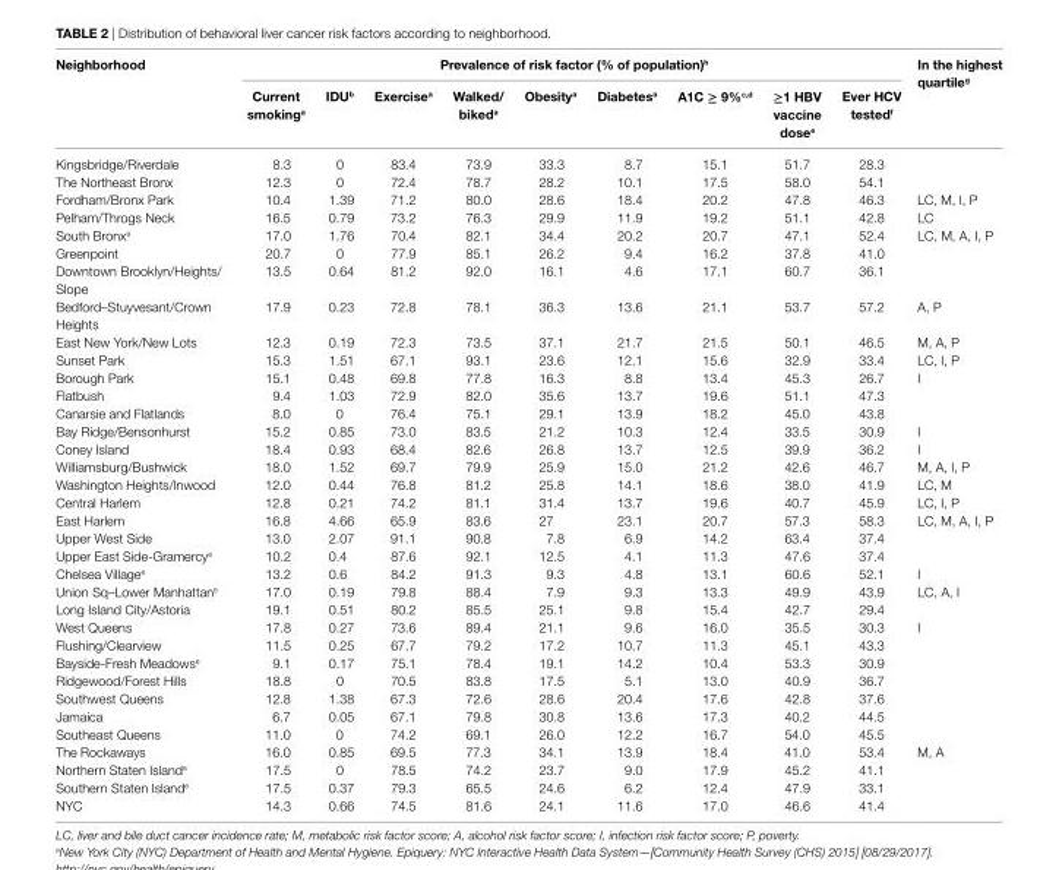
<table><thead><tr><td rowspan="2">neighborhood</td><td colspan="9">Prevalence of risk factor (% of population)<sup>h</sup></td><td rowspan="2">in the highest quartile<sup>g</sup></td></tr><tr><td>current smoking<sup>a</sup></td><td>iDU<sup>b</sup></td><td>exercise<sup>a</sup></td><td>Walked/ biked<sup>a</sup></td><td>Obesity<sup>a</sup></td><td>Diabetes<sup>a</sup></td><td>a1c ≥ 9%<sup>c,d</sup></td><td>≥1 hBV vaccine dose<sup>e</sup></td><td>ever hcV tested<sup>f</sup></td></tr></thead><tbody><tr><td>Kingsbridge/Riverdale</td><td>8.3</td><td>0</td><td>83.4</td><td>73.9</td><td>33.3</td><td>8.7</td><td>15.1</td><td>51.7</td><td>28.3</td><td></td></tr><tr><td>The Northeast Bronx</td><td>12.3</td><td>0</td><td>72.4</td><td>78.7</td><td>28.2</td><td>10.1</td><td>17.5</td><td>58.0</td><td>54.1</td><td></td></tr><tr><td>Fordham/Bronx Park</td><td>10.4</td><td>1.39</td><td>71.2</td><td>80.0</td><td>28.6</td><td>18.4</td><td>20.2</td><td>47.8</td><td>46.3</td><td>LC, M, I, P</td></tr><tr><td>Pelham/Throgs Neck</td><td>16.5</td><td>0.79</td><td>73.2</td><td>76.3</td><td>29.9</td><td>11.9</td><td>19.2</td><td>51.1</td><td>42.8</td><td>LC</td></tr><tr><td>South Bronx<sup>e</sup></td><td>17.0</td><td>1.76</td><td>70.4</td><td>82.1</td><td>34.4</td><td>20.2</td><td>20.7</td><td>47.1</td><td>52.4</td><td>LC, M, A, I, P</td></tr><tr><td>Greenpoint</td><td>20.7</td><td>0</td><td>77.9</td><td>85.1</td><td>26.2</td><td>9.4</td><td>16.2</td><td>37.8</td><td>41.0</td><td></td></tr><tr><td>Downtown Brooklyn/Heights/ Slope</td><td>13.5</td><td>0.64</td><td>81.2</td><td>92.0</td><td>16.1</td><td>4.6</td><td>17.1</td><td>60.7</td><td>36.1</td><td></td></tr><tr><td>Bedford–Stuyvesant/Crown Heights</td><td>17.9</td><td>0.23</td><td>72.8</td><td>78.1</td><td>36.3</td><td>13.6</td><td>21.1</td><td>53.7</td><td>57.2</td><td>A, P</td></tr><tr><td>East New York/New Lots</td><td>12.3</td><td>0.19</td><td>72.3</td><td>73.5</td><td>37.1</td><td>21.7</td><td>21.5</td><td>50.1</td><td>46.5</td><td>M, A, P</td></tr><tr><td>Sunset Park</td><td>15.3</td><td>1.51</td><td>67.1</td><td>93.1</td><td>23.6</td><td>12.1</td><td>15.6</td><td>32.9</td><td>33.4</td><td>LC, I, P</td></tr><tr><td>Borough Park</td><td>15.1</td><td>0.48</td><td>69.8</td><td>77.8</td><td>16.3</td><td>8.8</td><td>13.4</td><td>45.3</td><td>26.7</td><td>I</td></tr><tr><td>Flatbush</td><td>9.4</td><td>1.03</td><td>72.9</td><td>82.0</td><td>35.6</td><td>13.7</td><td>19.6</td><td>51.1</td><td>47.3</td><td></td></tr><tr><td>Canarsie and Flatlands</td><td>8.0</td><td>0</td><td>76.4</td><td>75.1</td><td>29.1</td><td>13.9</td><td>18.2</td><td>45.0</td><td>43.8</td><td></td></tr><tr><td>Bay Ridge/Bensonhurst</td><td>15.2</td><td>0.85</td><td>73.0</td><td>83.5</td><td>21.2</td><td>10.3</td><td>12.4</td><td>33.5</td><td>30.9</td><td>I</td></tr><tr><td>Coney Island</td><td>18.4</td><td>0.93</td><td>68.4</td><td>82.6</td><td>26.8</td><td>13.7</td><td>12.5</td><td>39.9</td><td>36.2</td><td>I</td></tr><tr><td>Williamsburg/Bushwick</td><td>18.0</td><td>1.52</td><td>69.7</td><td>79.9</td><td>25.9</td><td>15.0</td><td>21.2</td><td>42.6</td><td>46.7</td><td>M, A, I, P</td></tr><tr><td>Washington Heights/Inwood</td><td>12.0</td><td>0.44</td><td>76.8</td><td>81.2</td><td>25.8</td><td>14.1</td><td>18.6</td><td>38.0</td><td>41.9</td><td>LC, M</td></tr><tr><td>Central Harlem</td><td>12.8</td><td>0.21</td><td>74.2</td><td>81.1</td><td>31.4</td><td>13.7</td><td>19.6</td><td>40.7</td><td>45.9</td><td>LC, I, P</td></tr><tr><td>East Harlem</td><td>16.8</td><td>4.66</td><td>65.9</td><td>83.6</td><td>27</td><td>23.1</td><td>20.7</td><td>57.3</td><td>58.3</td><td>LC, M, A, I, P</td></tr><tr><td>Upper West Side</td><td>13.0</td><td>2.07</td><td>91.1</td><td>90.8</td><td>7.8</td><td>6.9</td><td>14.2</td><td>63.4</td><td>37.4</td><td></td></tr><tr><td>Upper East Side-Gramercy<sup>e</sup></td><td>10.2</td><td>0.4</td><td>87.6</td><td>92.1</td><td>12.5</td><td>4.1</td><td>11.3</td><td>47.6</td><td>37.4</td><td></td></tr><tr><td>Chelsea Village<sup>e</sup></td><td>13.2</td><td>0.6</td><td>84.2</td><td>91.3</td><td>9.3</td><td>4.8</td><td>13.1</td><td>60.6</td><td>52.1</td><td>I</td></tr><tr><td>Union Sq–Lower Manhattan<sup>e</sup></td><td>17.0</td><td>0.19</td><td>79.8</td><td>88.4</td><td>7.9</td><td>9.3</td><td>13.3</td><td>49.9</td><td>43.9</td><td>LC, A, I</td></tr><tr><td>Long Island City/Astoria</td><td>19.1</td><td>0.51</td><td>80.2</td><td>85.5</td><td>25.1</td><td>9.8</td><td>15.4</td><td>42.7</td><td>29.4</td><td></td></tr><tr><td>West Queens</td><td>17.8</td><td>0.27</td><td>73.6</td><td>89.4</td><td>21.1</td><td>9.6</td><td>16.0</td><td>35.5</td><td>30.3</td><td>I</td></tr><tr><td>Flushing/Clearview</td><td>11.5</td><td>0.25</td><td>67.7</td><td>79.2</td><td>17.2</td><td>10.7</td><td>11.3</td><td>45.1</td><td>43.3</td><td></td></tr><tr><td>Bayside-Fresh Meadows<sup>e</sup></td><td>9.1</td><td>0.17</td><td>75.1</td><td>78.4</td><td>19.1</td><td>14.2</td><td>10.4</td><td>53.3</td><td>30.9</td><td></td></tr><tr><td>Ridgewood/Forest Hills</td><td>18.8</td><td>0</td><td>70.5</td><td>83.8</td><td>17.5</td><td>5.1</td><td>13.0</td><td>40.9</td><td>36.7</td><td></td></tr><tr><td>Southwest Queens</td><td>12.8</td><td>1.38</td><td>67.3</td><td>72.6</td><td>28.6</td><td>20.4</td><td>17.6</td><td>42.8</td><td>37.6</td><td></td></tr><tr><td>Jamaica</td><td>6.7</td><td>0.05</td><td>67.1</td><td>79.8</td><td>30.8</td><td>13.6</td><td>17.3</td><td>40.2</td><td>44.5</td><td></td></tr><tr><td>Southeast Queens</td><td>11.0</td><td>0</td><td>74.2</td><td>69.1</td><td>26.0</td><td>12.2</td><td>16.7</td><td>54.0</td><td>45.5</td><td></td></tr><tr><td>The Rockaways</td><td>16.0</td><td>0.85</td><td>69.5</td><td>77.3</td><td>34.1</td><td>13.9</td><td>18.4</td><td>41.0</td><td>53.4</td><td>M, A</td></tr><tr><td>Northern Staten Island<sup>e</sup></td><td>17.5</td><td>0</td><td>78.5</td><td>74.2</td><td>23.7</td><td>9.0</td><td>17.9</td><td>45.2</td><td>41.1</td><td></td></tr><tr><td>Southern Staten Island<sup>e</sup></td><td>17.5</td><td>0.37</td><td>79.3</td><td>65.5</td><td>24.6</td><td>6.2</td><td>12.4</td><td>47.9</td><td>33.1</td><td></td></tr><tr><td>NYC</td><td>14.3</td><td>0.66</td><td>74.5</td><td>81.6</td><td>24.1</td><td>11.6</td><td>17.0</td><td>46.6</td><td>41.4</td><td></td></tr></tbody></table>